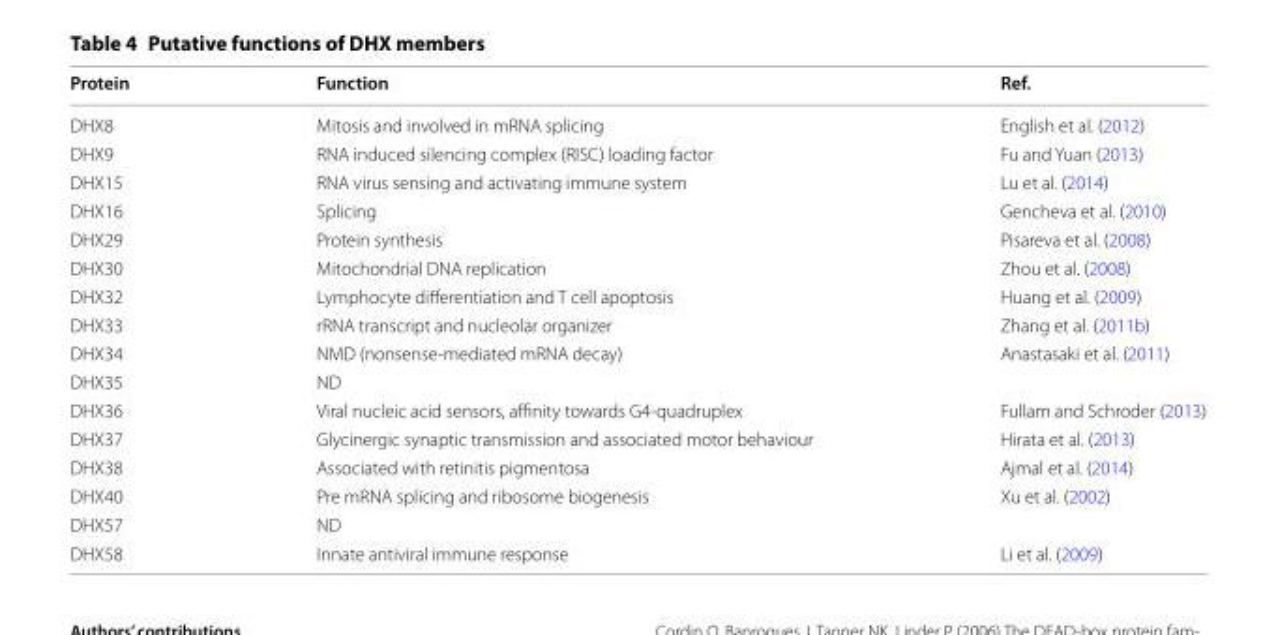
<table><thead><tr><td>Protein</td><td>Function</td><td>Ref.</td></tr></thead><tbody><tr><td>DHX8</td><td>Mitosis and involved in mRNA splicing</td><td>English et al. (2012)</td></tr><tr><td>DHX9</td><td>RNA induced silencing complex (RISC) loading factor</td><td>Fu and Yuan (2013)</td></tr><tr><td>DHX15</td><td>RNA virus sensing and activating immune system</td><td>Lu et al. (2014)</td></tr><tr><td>DHX16</td><td>Splicing</td><td>Gencheva et al. (2010)</td></tr><tr><td>DHX29</td><td>Protein synthesis</td><td>Pisareva et al. (2008)</td></tr><tr><td>DHX30</td><td>Mitochondrial DNA replication</td><td>Zhou et al. (2008)</td></tr><tr><td>DHX32</td><td>Lymphocyte differentiation and T cell apoptosis</td><td>Huang et al. (2009)</td></tr><tr><td>DHX33</td><td>rRNA transcript and nucleolar organizer</td><td>Zhang et al. (2011b)</td></tr><tr><td>DHX34</td><td>NMD (nonsense-mediated mRNA decay)</td><td>Anastasaki et al. (2011)</td></tr><tr><td>DHX35</td><td>ND</td><td></td></tr><tr><td>DHX36</td><td>Viral nucleic acid sensors, affinity towards G4-quadruplex</td><td>Fullam and Schroder (2013)</td></tr><tr><td>DHX37</td><td>Glycinergic synaptic transmission and associated motor behaviour</td><td>Hirata et al. (2013)</td></tr><tr><td>DHX38</td><td>Associated with retinitis pigmentosa</td><td>Ajmal et al. (2014)</td></tr><tr><td>DHX40</td><td>Pre mRNA splicing and ribosome biogenesis</td><td>Xu et al. (2002)</td></tr><tr><td>DHX57</td><td>ND</td><td></td></tr><tr><td>DHX58</td><td>Innate antiviral immune response</td><td>Li et al. (2009)</td></tr></tbody></table>